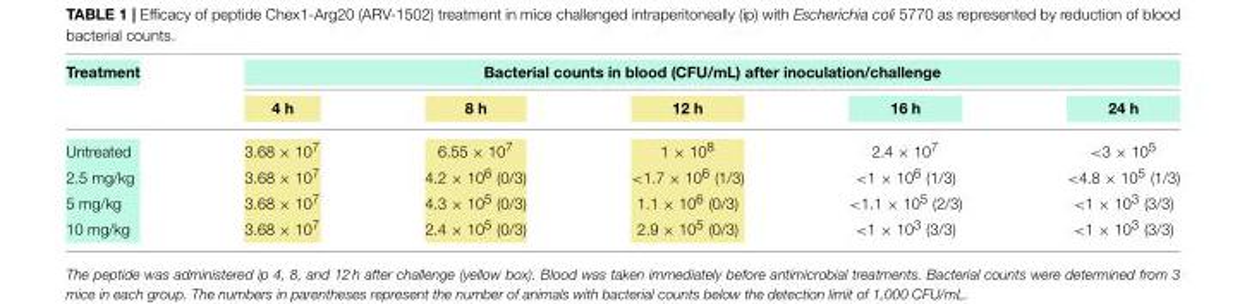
<table><thead><tr><td rowspan="2">Treatment</td><td colspan="5">Bacterial counts in blood (CFU/mL) after inoculation/challenge</td></tr><tr><td>4 h</td><td>8 h</td><td>12 h</td><td>16 h</td><td>24 h</td></tr></thead><tbody><tr><td>Untreated</td><td>3.68 × 10<sup>7</sup></td><td>6.55 × 10<sup>7</sup></td><td>1 × 10<sup>8</sup></td><td>2.4 × 10<sup>7</sup></td><td>&lt;3 × 10<sup>5</sup></td></tr><tr><td>2.5 mg/kg</td><td>3.68 × 10<sup>7</sup></td><td>4.2 × 10<sup>6</sup> (0/3)</td><td>&lt;1.7 × 10<sup>6</sup> (1/3)</td><td>&lt;1 × 10<sup>6</sup> (1/3)</td><td>&lt;4.8 × 10<sup>5</sup> (1/3)</td></tr><tr><td>5 mg/kg</td><td>3.68 × 10<sup>7</sup></td><td>4.3 × 10<sup>5</sup> (0/3)</td><td>1.1 × 10<sup>6</sup> (0/3)</td><td>&lt;1.1 × 10<sup>5</sup> (2/3)</td><td>&lt;1 × 10<sup>3</sup> (3/3)</td></tr><tr><td>10 mg/kg</td><td>3.68 × 10<sup>7</sup></td><td>2.4 × 10<sup>5</sup> (0/3)</td><td>2.9 × 10<sup>5</sup> (0/3)</td><td>&lt;1 × 10<sup>3</sup> (3/3)</td><td>&lt;1 × 10<sup>3</sup> (3/3)</td></tr></tbody></table>